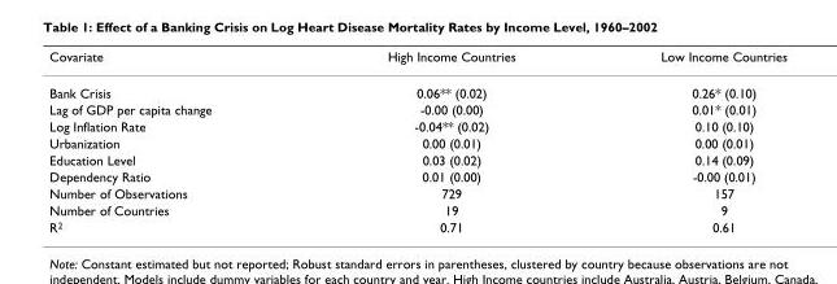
<table><thead><tr><td>Covariate</td><td>High Income Countries</td><td>Low Income Countries</td></tr></thead><tbody><tr><td>Bank Crisis</td><td>0.06** (0.02)</td><td>0.26* (0.10)</td></tr><tr><td>Lag of GDP per capita change</td><td>-0.00 (0.00)</td><td>0.01* (0.01)</td></tr><tr><td>Log Inflation Rate</td><td>-0.04** (0.02)</td><td>0.10 (0.10)</td></tr><tr><td>Urbanization</td><td>0.00 (0.01)</td><td>0.00 (0.01)</td></tr><tr><td>Education Level</td><td>0.03 (0.02)</td><td>0.14 (0.09)</td></tr><tr><td>Dependency Ratio</td><td>0.01 (0.00)</td><td>-0.00 (0.01)</td></tr><tr><td>Number of Observations</td><td>729</td><td>157</td></tr><tr><td>Number of Countries</td><td>19</td><td>9</td></tr><tr><td>R<sup>2</sup></td><td>0.71</td><td>0.61</td></tr></tbody></table>